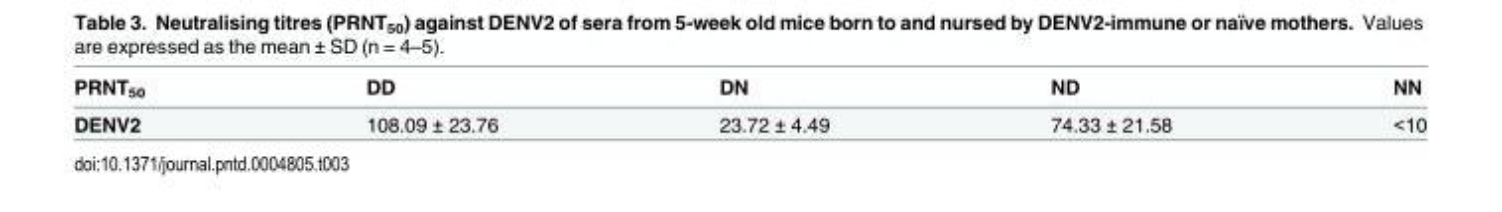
<table><thead><tr><td>PRNT<sub>50</sub></td><td>DD</td><td>DN</td><td>ND</td><td>NN</td></tr></thead><tbody><tr><td>DENV2</td><td>108.09 ± 23.76</td><td>23.72 ± 4.49</td><td>74.33 ± 21.58</td><td>&lt;10</td></tr></tbody></table>